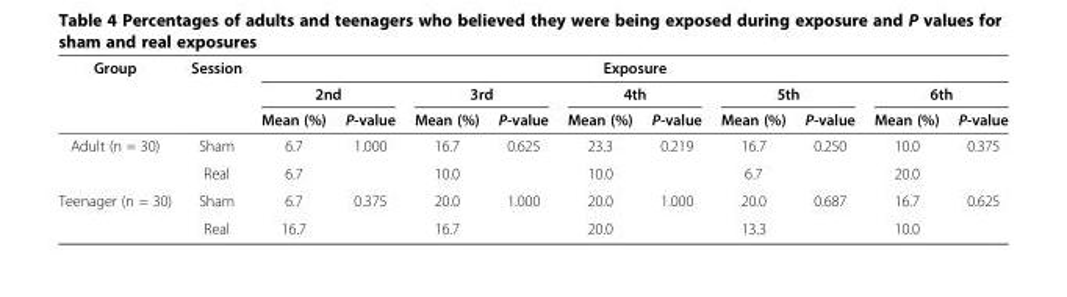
<table><thead><tr><td rowspan="3">Group</td><td rowspan="3">Session</td><td colspan="10">Exposure</td></tr><tr><td colspan="2">2nd</td><td colspan="2">3rd</td><td colspan="2">4th</td><td colspan="2">5th</td><td colspan="2">6th</td></tr><tr><td>Mean (%)</td><td>P-value</td><td>Mean (%)</td><td>P-value</td><td>Mean (%)</td><td>P-value</td><td>Mean (%)</td><td>P-value</td><td>Mean (%)</td><td>P-value</td></tr></thead><tbody><tr><td rowspan="2">Adult (n = 30)</td><td>Sham</td><td>6.7</td><td rowspan="2">1.000</td><td>16.7</td><td rowspan="2">0.625</td><td>23.3</td><td rowspan="2">0.219</td><td>16.7</td><td rowspan="2">0.250</td><td>10.0</td><td rowspan="2">0.375</td></tr><tr><td>Real</td><td>6.7</td><td>10.0</td><td>10.0</td><td>6.7</td><td>20.0</td></tr><tr><td rowspan="2">Teenager (n = 30)</td><td>Sham</td><td>6.7</td><td rowspan="2">0.375</td><td>20.0</td><td rowspan="2">1.000</td><td>20.0</td><td rowspan="2">1.000</td><td>20.0</td><td rowspan="2">0.687</td><td>16.7</td><td rowspan="2">0.625</td></tr><tr><td>Real</td><td>16.7</td><td>16.7</td><td>20.0</td><td>13.3</td><td>10.0</td></tr></tbody></table>